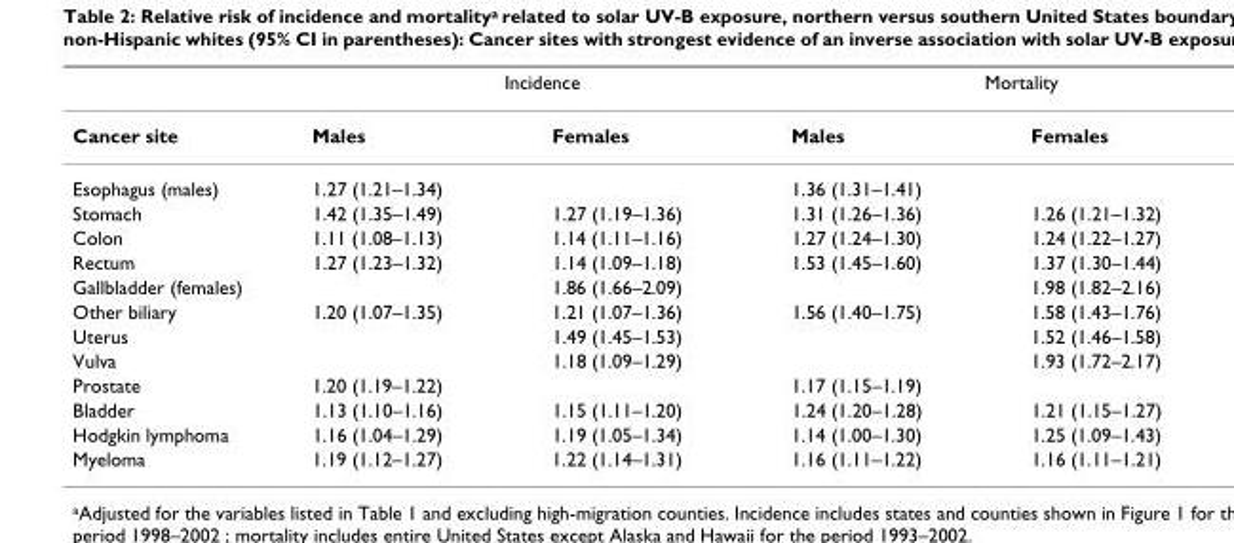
<table><thead><tr><td rowspan="2">Cancer site</td><td colspan="2">Incidence</td><td colspan="2">Mortality</td></tr><tr><td>Males</td><td>Females</td><td>Males</td><td>Females</td></tr></thead><tbody><tr><td>Esophagus (males)</td><td>1.27 (1.21–1.34)</td><td></td><td>1.36 (1.31–1.41)</td><td></td></tr><tr><td>Stomach</td><td>1.42 (1.35–1.49)</td><td>1.27 (1.19–1.36)</td><td>1.31 (1.26–1.36)</td><td>1.26 (1.21–1.32)</td></tr><tr><td>Colon</td><td>1.11 (1.08–1.13)</td><td>1.14 (1.11–1.16)</td><td>1.27 (1.24–1.30)</td><td>1.24 (1.22–1.27)</td></tr><tr><td>Rectum</td><td>1.27 (1.23–1.32)</td><td>1.14 (1.09–1.18)</td><td>1.53 (1.45–1.60)</td><td>1.37 (1.30–1.44)</td></tr><tr><td>Gallbladder (females)</td><td></td><td>1.86 (1.66–2.09)</td><td></td><td>1.98 (1.82–2.16)</td></tr><tr><td>Other biliary</td><td>1.20 (1.07–1.35)</td><td>1.21 (1.07–1.36)</td><td>1.56 (1.40–1.75)</td><td>1.58 (1.43–1.76)</td></tr><tr><td>Uterus</td><td></td><td>1.49 (1.45–1.53)</td><td></td><td>1.52 (1.46–1.58)</td></tr><tr><td>Vulva</td><td></td><td>1.18 (1.09–1.29)</td><td></td><td>1.93 (1.72–2.17)</td></tr><tr><td>Prostate</td><td>1.20 (1.19–1.22)</td><td></td><td>1.17 (1.15–1.19)</td><td></td></tr><tr><td>Bladder</td><td>1.13 (1.10–1.16)</td><td>1.15 (1.11–1.20)</td><td>1.24 (1.20–1.28)</td><td>1.21 (1.15–1.27)</td></tr><tr><td>Hodgkin lymphoma</td><td>1.16 (1.04–1.29)</td><td>1.19 (1.05–1.34)</td><td>1.14 (1.00–1.30)</td><td>1.25 (1.09–1.43)</td></tr><tr><td>Myeloma</td><td>1.19 (1.12–1.27)</td><td>1.22 (1.14–1.31)</td><td>1.16 (1.11–1.22)</td><td>1.16 (1.11–1.21)</td></tr></tbody></table>